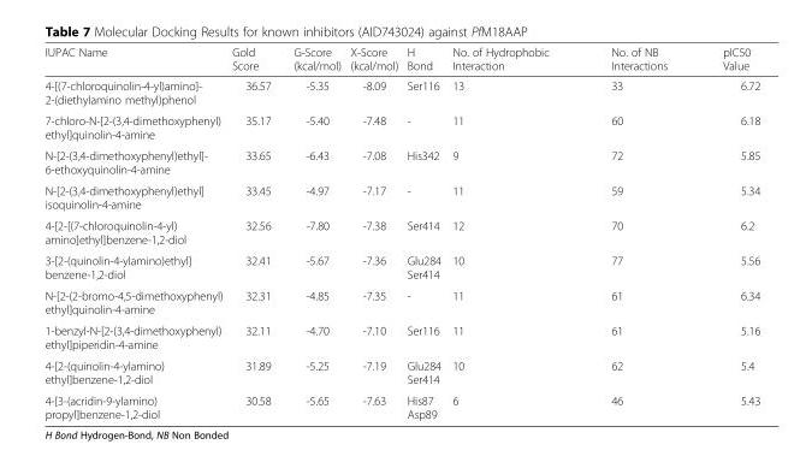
<table><thead><tr><td>IUPAC Name</td><td>Gold Score</td><td>G-Score (kcal/mol)</td><td>X-Score (kcal/mol)</td><td>H Bond</td><td>No. of Hydrophobic Interaction</td><td>No. of NB Interactions</td><td>pIC50 Value</td></tr></thead><tbody><tr><td>4-[(7-chloroquinolin-4-yl)amino]- 2-(diethylamino methyl)phenol</td><td>36.57</td><td>-5.35</td><td>-8.09</td><td>Ser116</td><td>13</td><td>33</td><td>6.72</td></tr><tr><td>7-chloro-N-[2-(3,4-dimethoxyphenyl) ethyl]quinolin-4-amine</td><td>35.17</td><td>-5.40</td><td>-7.48</td><td>-</td><td>11</td><td>60</td><td>6.18</td></tr><tr><td>N-[2-(3,4-dimethoxyphenyl)ethyl]- 6-ethoxyquinolin-4-amine</td><td>33.65</td><td>-6.43</td><td>-7.08</td><td>His342</td><td>9</td><td>72</td><td>5.85</td></tr><tr><td>N-[2-(3,4-dimethoxyphenyl)ethyl] isoquinolin-4-amine</td><td>33.45</td><td>-4.97</td><td>-7.17</td><td>-</td><td>11</td><td>59</td><td>5.34</td></tr><tr><td>4-[2-[(7-chloroquinolin-4-yl) amino]ethyl]benzene-1,2-diol</td><td>32.56</td><td>-7.80</td><td>-7.38</td><td>Ser414</td><td>12</td><td>70</td><td>6.2</td></tr><tr><td>3-[2-(quinolin-4-ylamino)ethyl] benzene-1,2-diol</td><td>32.41</td><td>-5.67</td><td>-7.36</td><td>Glu284 Ser414</td><td>10</td><td>77</td><td>5.56</td></tr><tr><td>N-[2-(2-bromo-4,5-dimethoxyphenyl) ethyl]quinolin-4-amine</td><td>32.31</td><td>-4.85</td><td>-7.35</td><td>-</td><td>11</td><td>61</td><td>6.34</td></tr><tr><td>1-benzyl-N-[2-(3,4-dimethoxyphenyl) ethyl]piperidin-4-amine</td><td>32.11</td><td>-4.70</td><td>-7.10</td><td>Ser116</td><td>11</td><td>61</td><td>5.16</td></tr><tr><td>4-[2-(quinolin-4-ylamino) ethyl]benzene-1,2-diol</td><td>31.89</td><td>-5.25</td><td>-7.19</td><td>Glu284 Ser414</td><td>10</td><td>62</td><td>5.4</td></tr><tr><td>4-[3-(acridin-9-ylamino) propyl]benzene-1,2-diol</td><td>30.58</td><td>-5.65</td><td>-7.63</td><td>His87 Asp89</td><td>6</td><td>46</td><td>5.43</td></tr></tbody></table>